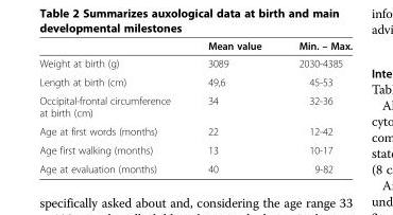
<table><thead><tr><td></td><td>Mean value</td><td>Min. – Max.</td></tr></thead><tbody><tr><td>Weight at birth (g)</td><td>3089</td><td>2030-4385</td></tr><tr><td>Length at birth (cm)</td><td>49,6</td><td>45-53</td></tr><tr><td>Occipital-frontal circumference at birth (cm)</td><td>34</td><td>32-36</td></tr><tr><td>Age at first words (months)</td><td>22</td><td>12-42</td></tr><tr><td>Age first walking (months)</td><td>13</td><td>10-17</td></tr><tr><td>Age at evaluation (months)</td><td>40</td><td>9-82</td></tr></tbody></table>